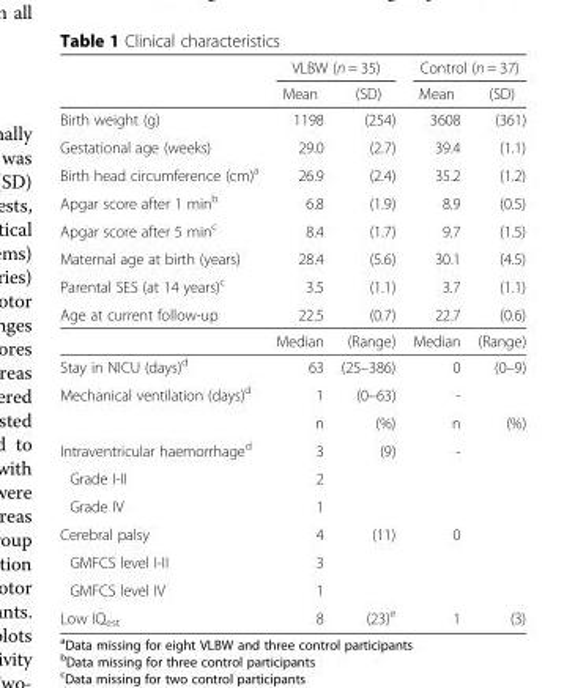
<table><thead><tr><td rowspan="2"></td><td colspan="2">VLBW (n = 35)</td><td colspan="2">Control (n = 37)</td></tr><tr><td>Mean</td><td>(SD)</td><td>Mean</td><td>(SD)</td></tr></thead><tbody><tr><td>Birth weight (g)</td><td>1198</td><td>(254)</td><td>3608</td><td>(361)</td></tr><tr><td>Gestational age (weeks)</td><td>29.0</td><td>(2.7)</td><td>39.4</td><td>(1.1)</td></tr><tr><td>Birth head circumference (cm)<sup>a</sup></td><td>26.9</td><td>(2.4)</td><td>35.2</td><td>(1.2)</td></tr><tr><td>Apgar score after 1 min<sup>b</sup></td><td>6.8</td><td>(1.9)</td><td>8.9</td><td>(0.5)</td></tr><tr><td>Apgar score after 5 min<sup>c</sup></td><td>8.4</td><td>(1.7)</td><td>9.7</td><td>(1.5)</td></tr><tr><td>Maternal age at birth (years)</td><td>28.4</td><td>(5.6)</td><td>30.1</td><td>(4.5)</td></tr><tr><td>Parental SES (at 14 years)<sup>c</sup></td><td>3.5</td><td>(1.1)</td><td>3.7</td><td>(1.1)</td></tr><tr><td rowspan="2">Age at current follow-up</td><td>22.5</td><td>(0.7)</td><td>22.7</td><td>(0.6)</td></tr><tr><td>Median</td><td>(Range)</td><td>Median</td><td>(Range)</td></tr><tr><td>Stay in NICU (days)<sup>d</sup></td><td>63</td><td>(25–386)</td><td>0</td><td>(0–9)</td></tr><tr><td rowspan="2">Mechanical ventilation (days)<sup>d</sup></td><td>1</td><td>(0–63)</td><td>-</td><td></td></tr><tr><td>n</td><td>(%)</td><td>n</td><td>(%)</td></tr><tr><td>Intraventricular haemorrhage<sup>d</sup></td><td>3</td><td>(9)</td><td>-</td><td></td></tr><tr><td>Grade I-II</td><td>2</td><td></td><td></td><td></td></tr><tr><td>Grade IV</td><td>1</td><td></td><td></td><td></td></tr><tr><td>Cerebral palsy</td><td>4</td><td>(11)</td><td>0</td><td></td></tr><tr><td>GMFCS level I-II</td><td>3</td><td></td><td></td><td></td></tr><tr><td>GMFCS level IV</td><td>1</td><td></td><td></td><td></td></tr><tr><td>Low IQ<sub>est</sub></td><td>8</td><td>(23)<sup>e</sup></td><td>1</td><td>(3)</td></tr></tbody></table>